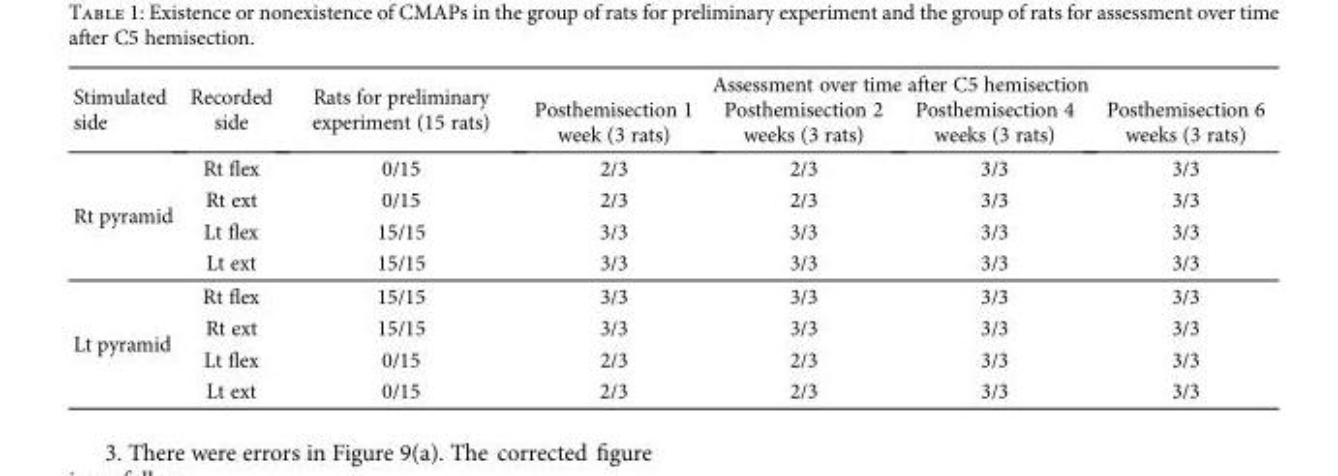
<table><thead><tr><td rowspan="2">Stimulated side</td><td rowspan="2">Recorded side</td><td rowspan="2">Rats for preliminary experiment (15 rats)</td><td colspan="4">Assessment over time after C5 hemisection</td></tr><tr><td>Posthemisection 1 week (3 rats)</td><td>Posthemisection 2 weeks (3 rats)</td><td>Posthemisection 4 weeks (3 rats)</td><td>Posthemisection 6 weeks (3 rats)</td></tr></thead><tbody><tr><td rowspan="4">Rt pyramid</td><td>Rt flex</td><td>0/15</td><td>2/3</td><td>2/3</td><td>3/3</td><td>3/3</td></tr><tr><td>Rt ext</td><td>0/15</td><td>2/3</td><td>2/3</td><td>3/3</td><td>3/3</td></tr><tr><td>Lt flex</td><td>15/15</td><td>3/3</td><td>3/3</td><td>3/3</td><td>3/3</td></tr><tr><td>Lt ext</td><td>15/15</td><td>3/3</td><td>3/3</td><td>3/3</td><td>3/3</td></tr><tr><td rowspan="4">Lt pyramid</td><td>Rt flex</td><td>15/15</td><td>3/3</td><td>3/3</td><td>3/3</td><td>3/3</td></tr><tr><td>Rt ext</td><td>15/15</td><td>3/3</td><td>3/3</td><td>3/3</td><td>3/3</td></tr><tr><td>Lt flex</td><td>0/15</td><td>2/3</td><td>2/3</td><td>3/3</td><td>3/3</td></tr><tr><td>Lt ext</td><td>0/15</td><td>2/3</td><td>2/3</td><td>3/3</td><td>3/3</td></tr></tbody></table>